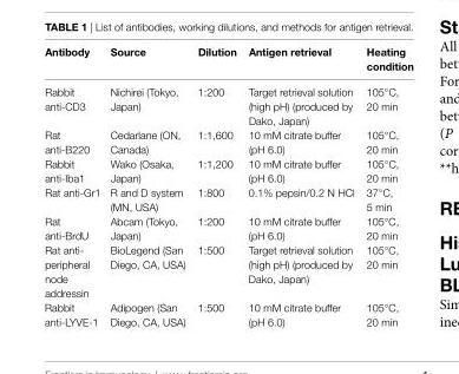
<table><thead><tr><td>antibody</td><td>source</td><td>Dilution</td><td>antigen retrieval</td><td>heating condition</td></tr></thead><tbody><tr><td>Rabbit anti-CD3</td><td>Nichirei (Tokyo, Japan)</td><td>1:200</td><td>Target retrieval solution (high pH) (produced by Dako, Japan)</td><td>105°C, 20 min</td></tr><tr><td>Rat anti-B220</td><td>Cedarlane (ON, Canada)</td><td>1:1,600</td><td>10 mM citrate buffer (pH 6.0)</td><td>105°C, 20 min</td></tr><tr><td>Rabbit anti-Iba1</td><td>Wako (Osaka, Japan)</td><td>1:1,200</td><td>10 mM citrate buffer (pH 6.0)</td><td>105°C, 20 min</td></tr><tr><td>Rat anti-Gr1</td><td>R and D system (MN, USA)</td><td>1:800</td><td>0.1% pepsin/0.2 N HCl</td><td>37°C, 5 min</td></tr><tr><td>Rat anti-BrdU</td><td>Abcam (Tokyo, Japan)</td><td>1:200</td><td>10 mM citrate buffer (pH 6.0)</td><td>105°C, 20 min</td></tr><tr><td>Rat anti- peripheral node addressin</td><td>BioLegend (San Diego, CA, USA)</td><td>1:500</td><td>Target retrieval solution (high pH) (produced by Dako, Japan)</td><td>105°C, 20 min</td></tr><tr><td>Rabbit anti-LYVE-1</td><td>Adipogen (San Diego, CA, USA)</td><td>1:500</td><td>10 mM citrate buffer (pH 6.0)</td><td>105°C, 20 min</td></tr></tbody></table>